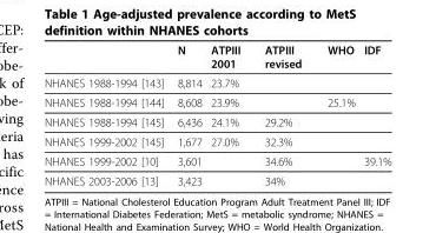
<table><thead><tr><td></td><td>N</td><td>ATPIII 2001</td><td>ATPIII revised</td><td>WHO</td><td>IDF</td></tr></thead><tbody><tr><td>NHANES 1988-1994 [143]</td><td>8,814</td><td>23.7%</td><td></td><td></td><td></td></tr><tr><td>NHANES 1988-1994 [144]</td><td>8,608</td><td>23.9%</td><td></td><td>25.1%</td><td></td></tr><tr><td>NHANES 1988-1994 [145]</td><td>6,436</td><td>24.1%</td><td>29.2%</td><td></td><td></td></tr><tr><td>NHANES 1999-2002 [145]</td><td>1,677</td><td>27.0%</td><td>32.3%</td><td></td><td></td></tr><tr><td>NHANES 1999-2002 [10]</td><td>3,601</td><td></td><td>34.6%</td><td></td><td>39.1%</td></tr><tr><td>NHANES 2003-2006 [13]</td><td>3,423</td><td></td><td>34%</td><td></td><td></td></tr></tbody></table>